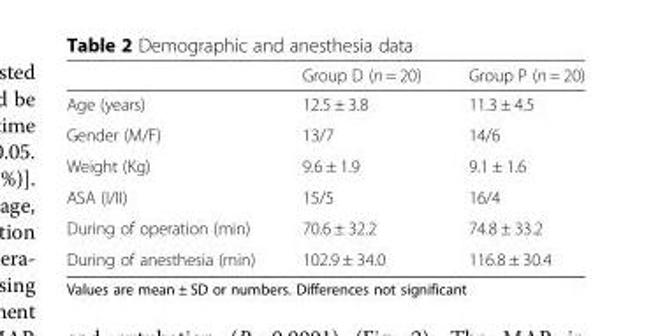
<table><thead><tr><td></td><td>Group D (n = 20)</td><td>Group P (n = 20)</td></tr></thead><tbody><tr><td>Age (years)</td><td>12.5 ± 3.8</td><td>11.3 ± 4.5</td></tr><tr><td>Gender (M/F)</td><td>13/7</td><td>14/6</td></tr><tr><td>Weight (Kg)</td><td>9.6 ± 1.9</td><td>9.1 ± 1.6</td></tr><tr><td>ASA (I/II)</td><td>15/5</td><td>16/4</td></tr><tr><td>During of operation (min)</td><td>70.6 ± 32.2</td><td>74.8 ± 33.2</td></tr><tr><td>During of anesthesia (min)</td><td>102.9 ± 34.0</td><td>116.8 ± 30.4</td></tr></tbody></table>